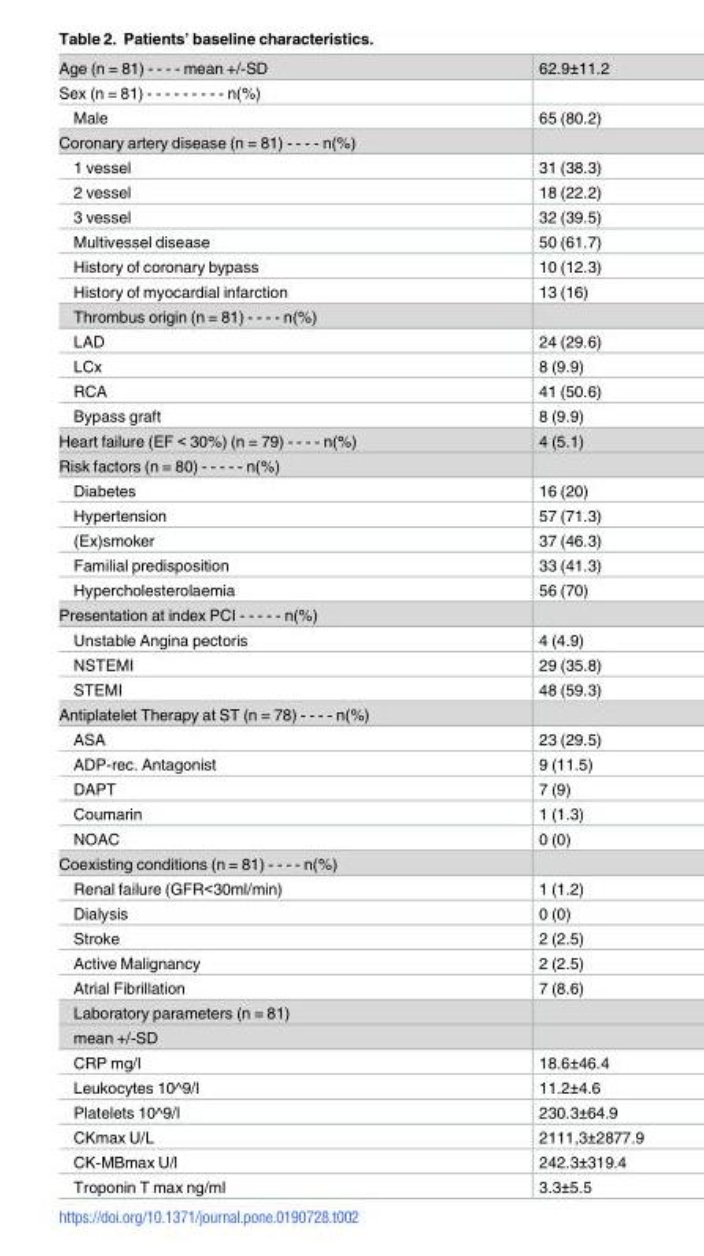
<table><tbody><tr><td>Age (n = 81) - - - - mean +/-SD</td><td>62.9±11.2</td></tr><tr><td colspan="2">Sex (n = 81) - - - - - - - - - n(%)</td></tr><tr><td>Male</td><td>65 (80.2)</td></tr><tr><td colspan="2">Coronary artery disease (n = 81) - - - - n(%)</td></tr><tr><td>1 vessel</td><td>31 (38.3)</td></tr><tr><td>2 vessel</td><td>18 (22.2)</td></tr><tr><td>3 vessel</td><td>32 (39.5)</td></tr><tr><td>Multivessel disease</td><td>50 (61.7)</td></tr><tr><td>History of coronary bypass</td><td>10 (12.3)</td></tr><tr><td>History of myocardial infarction</td><td>13 (16)</td></tr><tr><td colspan="2">Thrombus origin (n = 81) - - - - n(%)</td></tr><tr><td>LAD</td><td>24 (29.6)</td></tr><tr><td>LCx</td><td>8 (9.9)</td></tr><tr><td>RCA</td><td>41 (50.6)</td></tr><tr><td>Bypass graft</td><td>8 (9.9)</td></tr><tr><td>Heart failure (EF &lt; 30%) (n = 79) - - - - n(%)</td><td>4 (5.1)</td></tr><tr><td colspan="2">Risk factors (n = 80) - - - - - n(%)</td></tr><tr><td>Diabetes</td><td>16 (20)</td></tr><tr><td>Hypertension</td><td>57 (71.3)</td></tr><tr><td>(Ex)smoker</td><td>37 (46.3)</td></tr><tr><td>Familial predisposition</td><td>33 (41.3)</td></tr><tr><td>Hypercholesterolaemia</td><td>56 (70)</td></tr><tr><td colspan="2">Presentation at index PCI - - - - - n(%)</td></tr><tr><td>Unstable Angina pectoris</td><td>4 (4.9)</td></tr><tr><td>NSTEMI</td><td>29 (35.8)</td></tr><tr><td>STEMI</td><td>48 (59.3)</td></tr><tr><td colspan="2">Antiplatelet Therapy at ST (n = 78) - - - - n(%)</td></tr><tr><td>ASA</td><td>23 (29.5)</td></tr><tr><td>ADP-rec. Antagonist</td><td>9 (11.5)</td></tr><tr><td>DAPT</td><td>7 (9)</td></tr><tr><td>Coumarin</td><td>1 (1.3)</td></tr><tr><td>NOAC</td><td>0 (0)</td></tr><tr><td colspan="2">Coexisting conditions (n = 81) - - - - n(%)</td></tr><tr><td>Renal failure (GFR&lt;30ml/min)</td><td>1 (1.2)</td></tr><tr><td>Dialysis</td><td>0 (0)</td></tr><tr><td>Stroke</td><td>2 (2.5)</td></tr><tr><td>Active Malignancy</td><td>2 (2.5)</td></tr><tr><td>Atrial Fibrillation</td><td>7 (8.6)</td></tr><tr><td colspan="2">Laboratory parameters (n = 81)</td></tr><tr><td colspan="2">mean +/-SD</td></tr><tr><td>CRP mg/l</td><td>18.6±46.4</td></tr><tr><td>Leukocytes 10^9/l</td><td>11.2±4.6</td></tr><tr><td>Platelets 10^9/l</td><td>230.3±64.9</td></tr><tr><td>CKmax U/L</td><td>2111,3±2877.9</td></tr><tr><td>CK-MBmax U/l</td><td>242.3±319.4</td></tr><tr><td>Troponin T max ng/ml</td><td>3.3±5.5</td></tr></tbody></table>